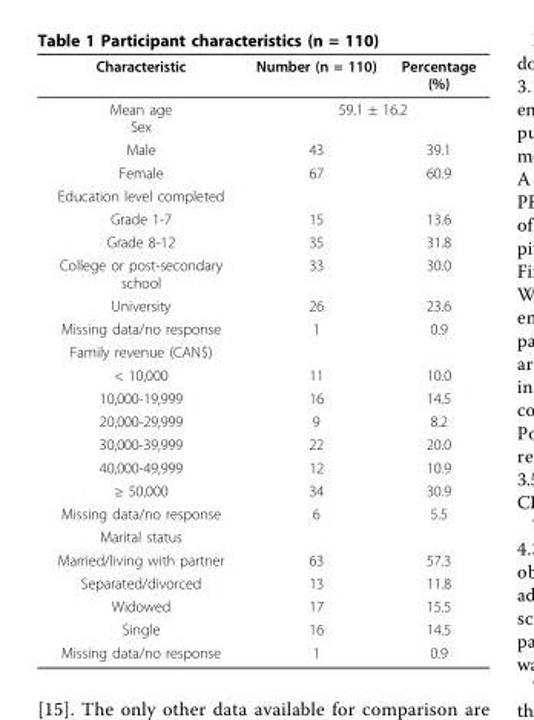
<table><thead><tr><td>Characteristic</td><td>Number (n = 110)</td><td>Percentage (%)</td></tr></thead><tbody><tr><td>Mean age Sex</td><td colspan="2">59.1 ± 16.2</td></tr><tr><td>Male</td><td>43</td><td>39.1</td></tr><tr><td>Female</td><td>67</td><td>60.9</td></tr><tr><td colspan="3">Education level completed</td></tr><tr><td>Grade 1-7</td><td>15</td><td>13.6</td></tr><tr><td>Grade 8-12</td><td>35</td><td>31.8</td></tr><tr><td>College or post-secondary school</td><td>33</td><td>30.0</td></tr><tr><td>University</td><td>26</td><td>23.6</td></tr><tr><td>Missing data/no response</td><td>1</td><td>0.9</td></tr><tr><td colspan="3">Family revenue (CAN$)</td></tr><tr><td>&lt; 10,000</td><td>11</td><td>10.0</td></tr><tr><td>10,000-19,999</td><td>16</td><td>14.5</td></tr><tr><td>20,000-29,999</td><td>9</td><td>8.2</td></tr><tr><td>30,000-39,999</td><td>22</td><td>20.0</td></tr><tr><td>40,000-49,999</td><td>12</td><td>10.9</td></tr><tr><td>≥ 50,000</td><td>34</td><td>30.9</td></tr><tr><td>Missing data/no response</td><td>6</td><td>5.5</td></tr><tr><td colspan="3">Marital status</td></tr><tr><td>Married/living with partner</td><td>63</td><td>57.3</td></tr><tr><td>Separated/divorced</td><td>13</td><td>11.8</td></tr><tr><td>Widowed</td><td>17</td><td>15.5</td></tr><tr><td>Single</td><td>16</td><td>14.5</td></tr><tr><td>Missing data/no response</td><td>1</td><td>0.9</td></tr></tbody></table>